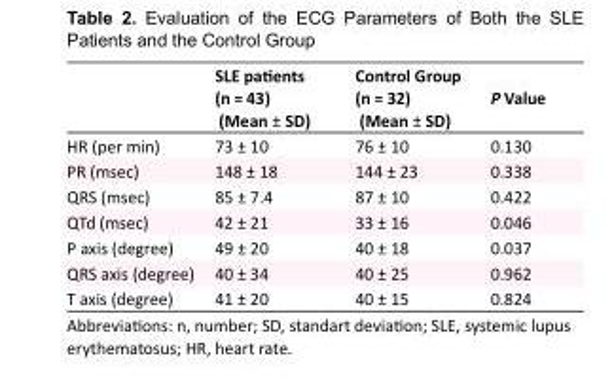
<table><thead><tr><td></td><td>SLE patients (n = 43) (Mean ± SD)</td><td>Control Group (n = 32) (Mean ± SD)</td><td>P Value</td></tr></thead><tbody><tr><td>HR (per min)</td><td>73 ± 10</td><td>76 ± 10</td><td>0.130</td></tr><tr><td>PR (msec)</td><td>148 ± 18</td><td>144 ± 23</td><td>0.338</td></tr><tr><td>QRS (msec)</td><td>85 ± 7.4</td><td>87 ± 10</td><td>0.422</td></tr><tr><td>QTd (msec)</td><td>42 ± 21</td><td>33 ± 16</td><td>0.046</td></tr><tr><td>P axis (degree)</td><td>49 ± 20</td><td>40 ± 18</td><td>0.037</td></tr><tr><td>QRS axis (degree)</td><td>40 ± 34</td><td>40 ± 25</td><td>0.962</td></tr><tr><td>T axis (degree)</td><td>41 ± 20</td><td>40 ± 15</td><td>0.824</td></tr></tbody></table>